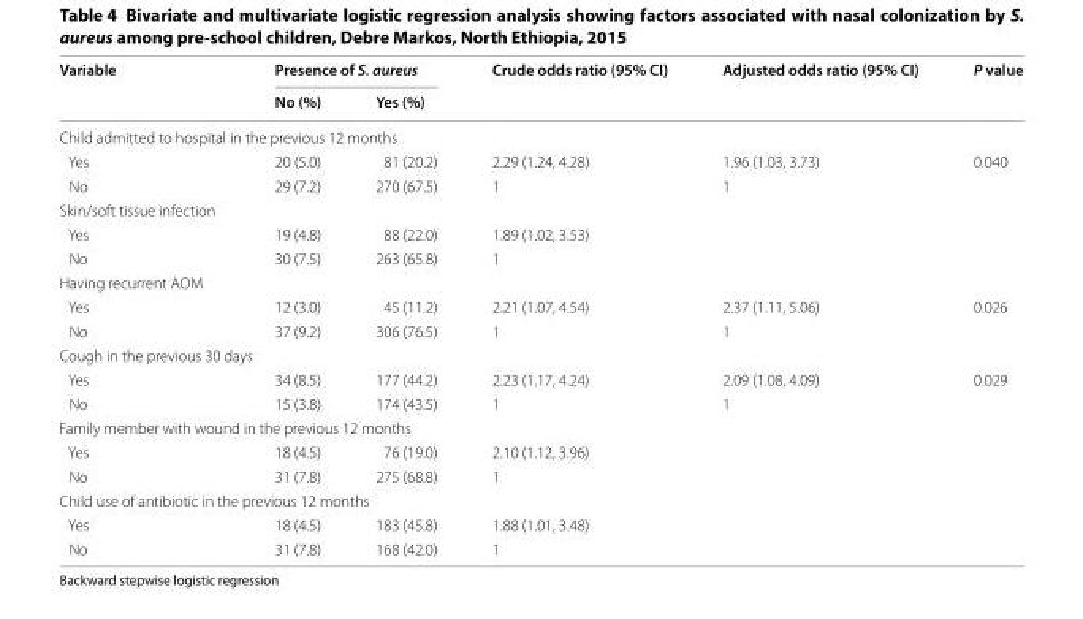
<table><thead><tr><td rowspan="2">Variable</td><td colspan="2">Presence of S. aureus</td><td rowspan="2">Crude odds ratio (95% CI)</td><td rowspan="2">Adjusted odds ratio (95% CI)</td><td rowspan="2">P value</td></tr><tr><td>No (%)</td><td>Yes (%)</td></tr></thead><tbody><tr><td colspan="6">Child admitted to hospital in the previous 12 months</td></tr><tr><td>Yes</td><td>20 (5.0)</td><td>81 (20.2)</td><td>2.29 (1.24, 4.28)</td><td>1.96 (1.03, 3.73)</td><td>0.040</td></tr><tr><td>No</td><td>29 (7.2)</td><td>270 (67.5)</td><td>1</td><td>1</td><td></td></tr><tr><td colspan="6">Skin/soft tissue infection</td></tr><tr><td>Yes</td><td>19 (4.8)</td><td>88 (22.0)</td><td>1.89 (1.02, 3.53)</td><td></td><td></td></tr><tr><td>No</td><td>30 (7.5)</td><td>263 (65.8)</td><td>1</td><td></td><td></td></tr><tr><td colspan="6">Having recurrent AOM</td></tr><tr><td>Yes</td><td>12 (3.0)</td><td>45 (11.2)</td><td>2.21 (1.07, 4.54)</td><td>2.37 (1.11, 5.06)</td><td>0.026</td></tr><tr><td>No</td><td>37 (9.2)</td><td>306 (76.5)</td><td>1</td><td>1</td><td></td></tr><tr><td colspan="6">Cough in the previous 30 days</td></tr><tr><td>Yes</td><td>34 (8.5)</td><td>177 (44.2)</td><td>2.23 (1.17, 4.24)</td><td>2.09 (1.08, 4.09)</td><td>0.029</td></tr><tr><td>No</td><td>15 (3.8)</td><td>174 (43.5)</td><td>1</td><td>1</td><td></td></tr><tr><td colspan="6">Family member with wound in the previous 12 months</td></tr><tr><td>Yes</td><td>18 (4.5)</td><td>76 (19.0)</td><td>2.10 (1.12, 3.96)</td><td></td><td></td></tr><tr><td>No</td><td>31 (7.8)</td><td>275 (68.8)</td><td>1</td><td></td><td></td></tr><tr><td colspan="6">Child use of antibiotic in the previous 12 months</td></tr><tr><td>Yes</td><td>18 (4.5)</td><td>183 (45.8)</td><td>1.88 (1.01, 3.48)</td><td></td><td></td></tr><tr><td>No</td><td>31 (7.8)</td><td>168 (42.0)</td><td>1</td><td></td><td></td></tr></tbody></table>